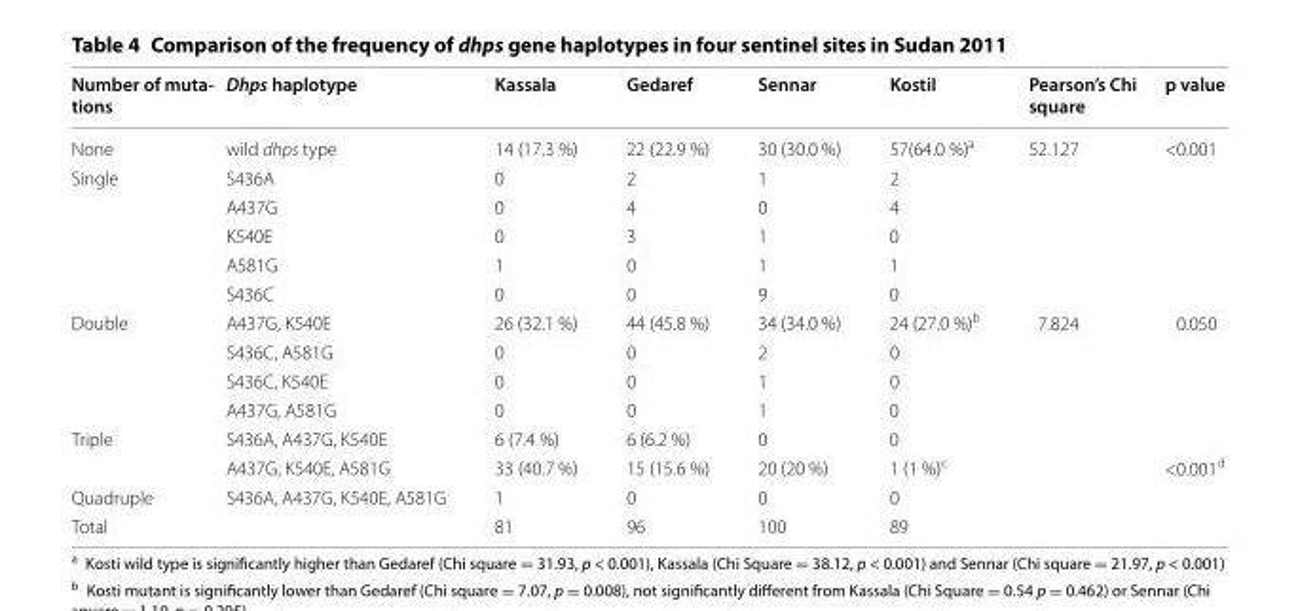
<table><thead><tr><td>Number of muta‑ tions</td><td>Dhps haplotype</td><td>Kassala</td><td>Gedaref</td><td>Sennar</td><td>KostiI</td><td>Pearson’s Chi square</td><td>p value</td></tr></thead><tbody><tr><td>None</td><td>wild dhps type</td><td>14 (17.3 %)</td><td>22 (22.9 %)</td><td>30 (30.0 %)</td><td>57(64.0 %)<sup>a</sup></td><td>52.127</td><td>&lt;0.001</td></tr><tr><td rowspan="5">Single</td><td>S436A</td><td>0</td><td>2</td><td>1</td><td>2</td><td></td><td></td></tr><tr><td>A437G</td><td>0</td><td>4</td><td>0</td><td>4</td><td></td><td></td></tr><tr><td>K540E</td><td>0</td><td>3</td><td>1</td><td>0</td><td></td><td></td></tr><tr><td>A581G</td><td>1</td><td>0</td><td>1</td><td>1</td><td></td><td></td></tr><tr><td>S436C</td><td>0</td><td>0</td><td>9</td><td>0</td><td></td><td></td></tr><tr><td rowspan="4">Double</td><td>A437G, K540E</td><td>26 (32.1 %)</td><td>44 (45.8 %)</td><td>34 (34.0 %)</td><td>24 (27.0 %)<sup>b</sup></td><td>7.824</td><td>0.050</td></tr><tr><td>S436C, A581G</td><td>0</td><td>0</td><td>2</td><td>0</td><td></td><td></td></tr><tr><td>S436C, K540E</td><td>0</td><td>0</td><td>1</td><td>0</td><td></td><td></td></tr><tr><td>A437G, A581G</td><td>0</td><td>0</td><td>1</td><td>0</td><td></td><td></td></tr><tr><td rowspan="2">Triple</td><td>S436A, A437G, K540E</td><td>6 (7.4 %)</td><td>6 (6.2 %)</td><td>0</td><td>0</td><td></td><td></td></tr><tr><td>A437G, K540E, A581G</td><td>33 (40.7 %)</td><td>15 (15.6 %)</td><td>20 (20 %)</td><td>1 (1 %)<sup>c</sup></td><td></td><td>&lt;0.001<sup>d</sup></td></tr><tr><td>Quadruple</td><td>S436A, A437G, K540E, A581G</td><td>1</td><td>0</td><td>0</td><td>0</td><td></td><td></td></tr><tr><td>Total</td><td></td><td>81</td><td>96</td><td>100</td><td>89</td><td></td><td></td></tr></tbody></table>